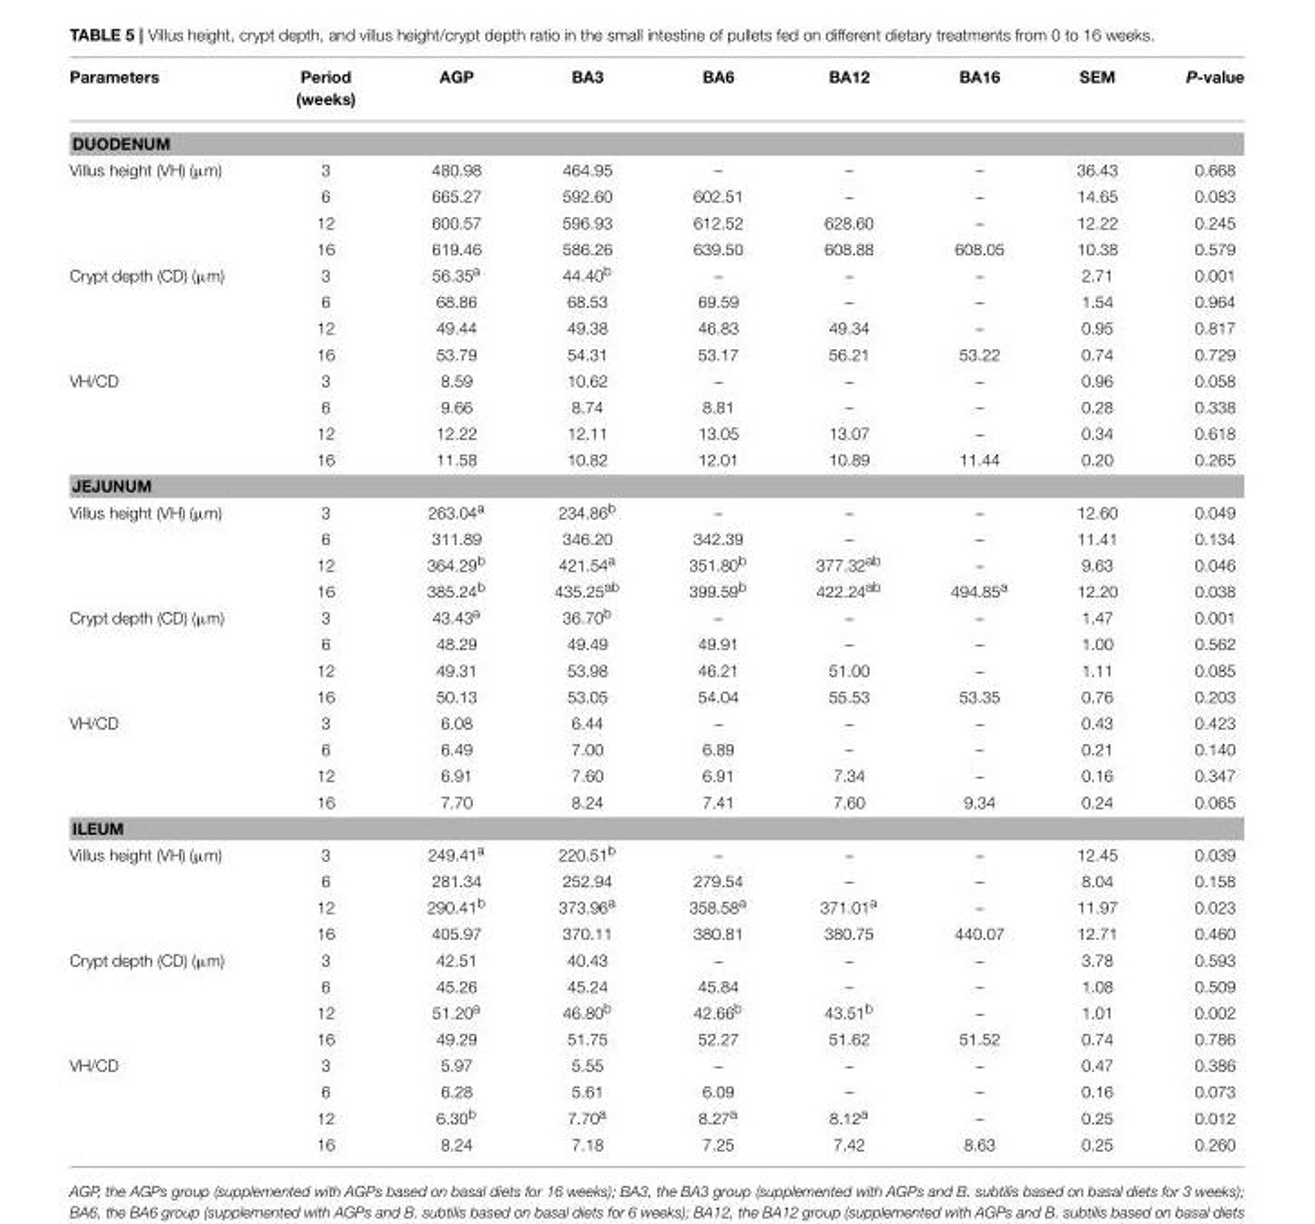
<table><thead><tr><td>Parameters</td><td>Period (weeks)</td><td>AGP</td><td>BA3</td><td>BA6</td><td>BA12</td><td>BA16</td><td>SEM</td><td>P-value</td></tr></thead><tbody><tr><td colspan="9">DUODENUM</td></tr><tr><td rowspan="4">Villus height (VH) (µm)</td><td>3</td><td>480.98</td><td>464.95</td><td>–</td><td>–</td><td>–</td><td>36.43</td><td>0.668</td></tr><tr><td>6</td><td>665.27</td><td>592.60</td><td>602.51</td><td>–</td><td>–</td><td>14.65</td><td>0.083</td></tr><tr><td>12</td><td>600.57</td><td>596.93</td><td>612.52</td><td>628.60</td><td>–</td><td>12.22</td><td>0.245</td></tr><tr><td>16</td><td>619.46</td><td>586.26</td><td>639.50</td><td>608.88</td><td>608.05</td><td>10.38</td><td>0.579</td></tr><tr><td rowspan="4">Crypt depth (CD) (µm)</td><td>3</td><td>56.35<sup>a</sup></td><td>44.40<sup>b</sup></td><td>–</td><td>–</td><td>–</td><td>2.71</td><td>0.001</td></tr><tr><td>6</td><td>68.86</td><td>68.53</td><td>69.59</td><td>–</td><td>–</td><td>1.54</td><td>0.964</td></tr><tr><td>12</td><td>49.44</td><td>49.38</td><td>46.83</td><td>49.34</td><td>–</td><td>0.95</td><td>0.817</td></tr><tr><td>16</td><td>53.79</td><td>54.31</td><td>53.17</td><td>56.21</td><td>53.22</td><td>0.74</td><td>0.729</td></tr><tr><td rowspan="4">VH/CD</td><td>3</td><td>8.59</td><td>10.62</td><td>–</td><td>–</td><td>–</td><td>0.96</td><td>0.058</td></tr><tr><td>6</td><td>9.66</td><td>8.74</td><td>8.81</td><td>–</td><td>–</td><td>0.28</td><td>0.338</td></tr><tr><td>12</td><td>12.22</td><td>12.11</td><td>13.05</td><td>13.07</td><td>–</td><td>0.34</td><td>0.618</td></tr><tr><td>16</td><td>11.58</td><td>10.82</td><td>12.01</td><td>10.89</td><td>11.44</td><td>0.20</td><td>0.265</td></tr><tr><td colspan="9">JEJUNUM</td></tr><tr><td rowspan="4">Villus height (VH) (µm)</td><td>3</td><td>263.04<sup>a</sup></td><td>234.86<sup>b</sup></td><td>–</td><td>–</td><td>–</td><td>12.60</td><td>0.049</td></tr><tr><td>6</td><td>311.89</td><td>346.20</td><td>342.39</td><td>–</td><td>–</td><td>11.41</td><td>0.134</td></tr><tr><td>12</td><td>364.29<sup>b</sup></td><td>421.54<sup>a</sup></td><td>351.80<sup>b</sup></td><td>377.32<sup>ab</sup></td><td>–</td><td>9.63</td><td>0.046</td></tr><tr><td>16</td><td>385.24<sup>b</sup></td><td>435.25<sup>ab</sup></td><td>399.59<sup>b</sup></td><td>422.24<sup>ab</sup></td><td>494.85<sup>a</sup></td><td>12.20</td><td>0.038</td></tr><tr><td rowspan="4">Crypt depth (CD) (µm)</td><td>3</td><td>43.43<sup>a</sup></td><td>36.70<sup>b</sup></td><td>–</td><td>–</td><td>–</td><td>1.47</td><td>0.001</td></tr><tr><td>6</td><td>48.29</td><td>49.49</td><td>49.91</td><td>–</td><td>–</td><td>1.00</td><td>0.562</td></tr><tr><td>12</td><td>49.31</td><td>53.98</td><td>46.21</td><td>51.00</td><td>–</td><td>1.11</td><td>0.085</td></tr><tr><td>16</td><td>50.13</td><td>53.05</td><td>54.04</td><td>55.53</td><td>53.35</td><td>0.76</td><td>0.203</td></tr><tr><td rowspan="4">VH/CD</td><td>3</td><td>6.08</td><td>6.44</td><td>–</td><td>–</td><td>–</td><td>0.43</td><td>0.423</td></tr><tr><td>6</td><td>6.49</td><td>7.00</td><td>6.89</td><td>–</td><td>–</td><td>0.21</td><td>0.140</td></tr><tr><td>12</td><td>6.91</td><td>7.60</td><td>6.91</td><td>7.34</td><td>–</td><td>0.16</td><td>0.347</td></tr><tr><td>16</td><td>7.70</td><td>8.24</td><td>7.41</td><td>7.60</td><td>9.34</td><td>0.24</td><td>0.065</td></tr><tr><td colspan="9">ILEUM</td></tr><tr><td rowspan="4">Villus height (VH) (µm)</td><td>3</td><td>249.41<sup>a</sup></td><td>220.51<sup>b</sup></td><td>–</td><td>–</td><td>–</td><td>12.45</td><td>0.039</td></tr><tr><td>6</td><td>281.34</td><td>252.94</td><td>279.54</td><td>–</td><td>–</td><td>8.04</td><td>0.158</td></tr><tr><td>12</td><td>290.41<sup>b</sup></td><td>373.96<sup>a</sup></td><td>358.58<sup>a</sup></td><td>371.01<sup>a</sup></td><td>–</td><td>11.97</td><td>0.023</td></tr><tr><td>16</td><td>405.97</td><td>370.11</td><td>380.81</td><td>380.75</td><td>440.07</td><td>12.71</td><td>0.460</td></tr><tr><td rowspan="4">Crypt depth (CD) (µm)</td><td>3</td><td>42.51</td><td>40.43</td><td>–</td><td>–</td><td>–</td><td>3.78</td><td>0.593</td></tr><tr><td>6</td><td>45.26</td><td>45.24</td><td>45.84</td><td>–</td><td>–</td><td>1.08</td><td>0.509</td></tr><tr><td>12</td><td>51.20<sup>a</sup></td><td>46.80<sup>b</sup></td><td>42.66<sup>b</sup></td><td>43.51<sup>b</sup></td><td>–</td><td>1.01</td><td>0.002</td></tr><tr><td>16</td><td>49.29</td><td>51.75</td><td>52.27</td><td>51.62</td><td>51.52</td><td>0.74</td><td>0.786</td></tr><tr><td rowspan="4">VH/CD</td><td>3</td><td>5.97</td><td>5.55</td><td>–</td><td>–</td><td>–</td><td>0.47</td><td>0.386</td></tr><tr><td>6</td><td>6.28</td><td>5.61</td><td>6.09</td><td>–</td><td>–</td><td>0.16</td><td>0.073</td></tr><tr><td>12</td><td>6.30<sup>b</sup></td><td>7.70<sup>a</sup></td><td>8.27<sup>a</sup></td><td>8.12<sup>a</sup></td><td>–</td><td>0.25</td><td>0.012</td></tr><tr><td>16</td><td>8.24</td><td>7.18</td><td>7.25</td><td>7.42</td><td>8.63</td><td>0.25</td><td>0.260</td></tr></tbody></table>